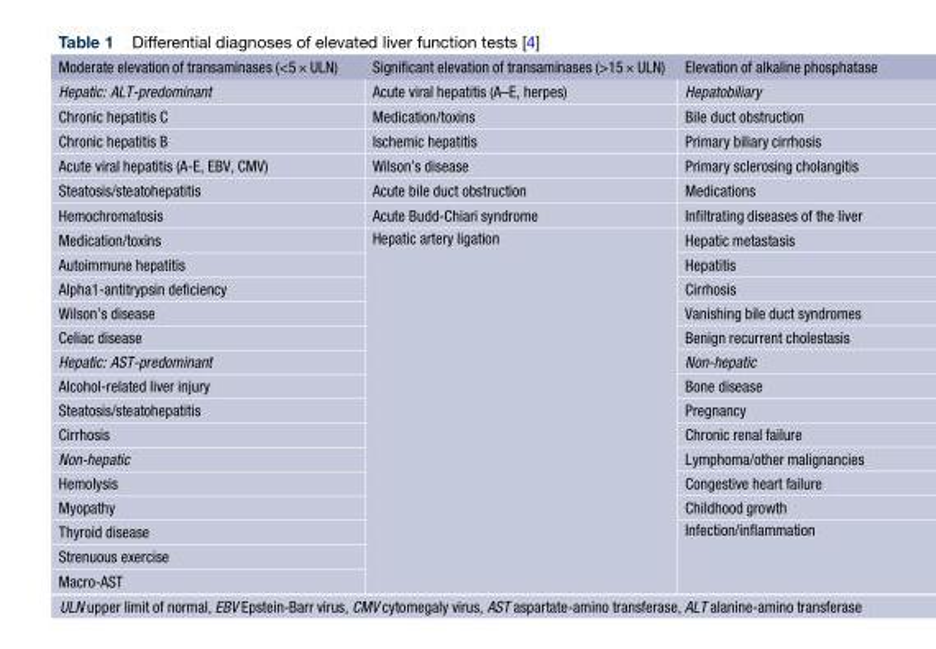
<table><thead><tr><td>Moderate elevation of transaminases (&lt;5× ULN)</td><td>Significant elevation of transaminases (&gt;15× ULN)</td><td>Elevation of alkaline phosphatase</td></tr></thead><tbody><tr><td>Hepatic: ALT-predominant</td><td>Acute viral hepatitis (A–E, herpes)</td><td>Hepatobiliary</td></tr><tr><td>Chronic hepatitis C</td><td>Medication/toxins</td><td>Bile duct obstruction</td></tr><tr><td>Chronic hepatitis B</td><td>Ischemic hepatitis</td><td>Primary biliary cirrhosis</td></tr><tr><td>Acute viral hepatitis (A-E, EBV, CMV)</td><td>Wilson’s disease</td><td>Primary sclerosing cholangitis</td></tr><tr><td>Steatosis/steatohepatitis</td><td>Acute bile duct obstruction</td><td>Medications</td></tr><tr><td>Hemochromatosis</td><td>Acute Budd-Chiari syndrome</td><td>Infiltrating diseases of the liver</td></tr><tr><td>Medication/toxins</td><td rowspan="15">Hepatic artery ligation</td><td>Hepatic metastasis</td></tr><tr><td>Autoimmune hepatitis</td><td>Hepatitis</td></tr><tr><td>Alpha1-antitrypsin deficiency</td><td>Cirrhosis</td></tr><tr><td>Wilson’s disease</td><td>Vanishing bile duct syndromes</td></tr><tr><td>Celiac disease</td><td>Benign recurrent cholestasis</td></tr><tr><td>Hepatic: AST-predominant</td><td>Non-hepatic</td></tr><tr><td>Alcohol-related liver injury</td><td>Bone disease</td></tr><tr><td>Steatosis/steatohepatitis</td><td>Pregnancy</td></tr><tr><td>Cirrhosis</td><td>Chronic renal failure</td></tr><tr><td>Non-hepatic</td><td>Lymphoma/other malignancies</td></tr><tr><td>Hemolysis</td><td>Congestive heart failure</td></tr><tr><td>Myopathy</td><td>Childhood growth</td></tr><tr><td>Thyroid disease</td><td rowspan="3">Infection/inflammation</td></tr><tr><td>Strenuous exercise</td></tr><tr><td>Macro-AST</td></tr></tbody></table>